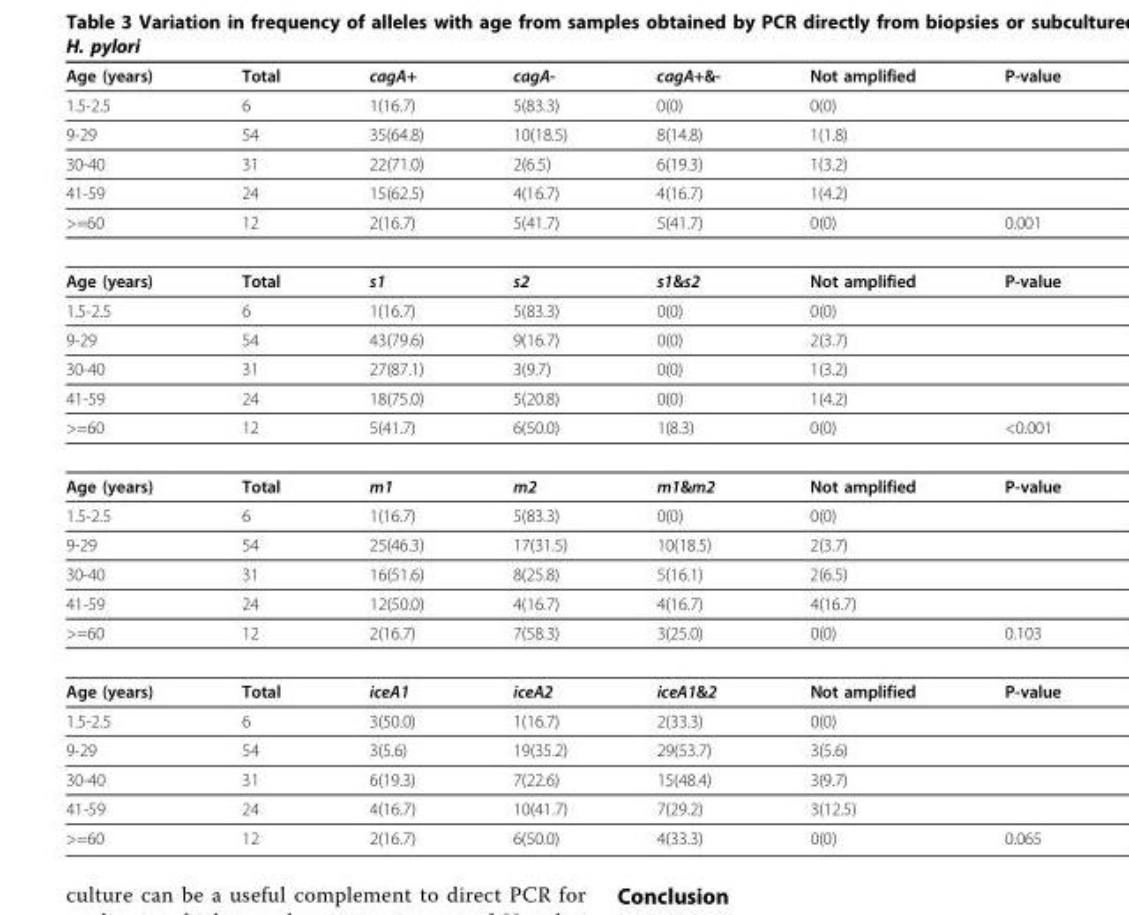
<table><thead><tr><td>Age (years)</td><td>Total</td><td>cagA+</td><td>cagA-</td><td>cagA+&amp;-</td><td>Not amplified</td><td>P-value</td></tr></thead><tbody><tr><td>1.5-2.5</td><td>6</td><td>1(16.7)</td><td>5(83.3)</td><td>0(0)</td><td>0(0)</td><td></td></tr><tr><td>9-29</td><td>54</td><td>35(64.8)</td><td>10(18.5)</td><td>8(14.8)</td><td>1(1.8)</td><td></td></tr><tr><td>30-40</td><td>31</td><td>22(71.0)</td><td>2(6.5)</td><td>6(19.3)</td><td>1(3.2)</td><td></td></tr><tr><td>41-59</td><td>24</td><td>15(62.5)</td><td>4(16.7)</td><td>4(16.7)</td><td>1(4.2)</td><td></td></tr><tr><td>&gt;=60</td><td>12</td><td>2(16.7)</td><td>5(41.7)</td><td>5(41.7)</td><td>0(0)</td><td>0.001</td></tr><tr><td>Age (years)</td><td>Total</td><td>s1</td><td>s2</td><td>s1&amp;s2</td><td>Not amplified</td><td>P-value</td></tr><tr><td>1.5-2.5</td><td>6</td><td>1(16.7)</td><td>5(83.3)</td><td>0(0)</td><td>0(0)</td><td></td></tr><tr><td>9-29</td><td>54</td><td>43(79.6)</td><td>9(16.7)</td><td>0(0)</td><td>2(3.7)</td><td></td></tr><tr><td>30-40</td><td>31</td><td>27(87.1)</td><td>3(9.7)</td><td>0(0)</td><td>1(3.2)</td><td></td></tr><tr><td>41-59</td><td>24</td><td>18(75.0)</td><td>5(20.8)</td><td>0(0)</td><td>1(4.2)</td><td></td></tr><tr><td>&gt;=60</td><td>12</td><td>5(41.7)</td><td>6(50.0)</td><td>1(8.3)</td><td>0(0)</td><td>&lt;0.001</td></tr><tr><td>Age (years)</td><td>Total</td><td>m1</td><td>m2</td><td>m1&amp;m2</td><td>Not amplified</td><td>P-value</td></tr><tr><td>1.5-2.5</td><td>6</td><td>1(16.7)</td><td>5(83.3)</td><td>0(0)</td><td>0(0)</td><td></td></tr><tr><td>9-29</td><td>54</td><td>25(46.3)</td><td>17(31.5)</td><td>10(18.5)</td><td>2(3.7)</td><td></td></tr><tr><td>30-40</td><td>31</td><td>16(51.6)</td><td>8(25.8)</td><td>5(16.1)</td><td>2(6.5)</td><td></td></tr><tr><td>41-59</td><td>24</td><td>12(50.0)</td><td>4(16.7)</td><td>4(16.7)</td><td>4(16.7)</td><td></td></tr><tr><td>&gt;=60</td><td>12</td><td>2(16.7)</td><td>7(58.3)</td><td>3(25.0)</td><td>0(0)</td><td>0.103</td></tr><tr><td>Age (years)</td><td>Total</td><td>iceA1</td><td>iceA2</td><td>iceA1&amp;2</td><td>Not amplified</td><td>P-value</td></tr><tr><td>1.5-2.5</td><td>6</td><td>3(50.0)</td><td>1(16.7)</td><td>2(33.3)</td><td>0(0)</td><td></td></tr><tr><td>9-29</td><td>54</td><td>3(5.6)</td><td>19(35.2)</td><td>29(53.7)</td><td>3(5.6)</td><td></td></tr><tr><td>30-40</td><td>31</td><td>6(19.3)</td><td>7(22.6)</td><td>15(48.4)</td><td>3(9.7)</td><td></td></tr><tr><td>41-59</td><td>24</td><td>4(16.7)</td><td>10(41.7)</td><td>7(29.2)</td><td>3(12.5)</td><td></td></tr><tr><td>&gt;=60</td><td>12</td><td>2(16.7)</td><td>6(50.0)</td><td>4(33.3)</td><td>0(0)</td><td>0.065</td></tr></tbody></table>